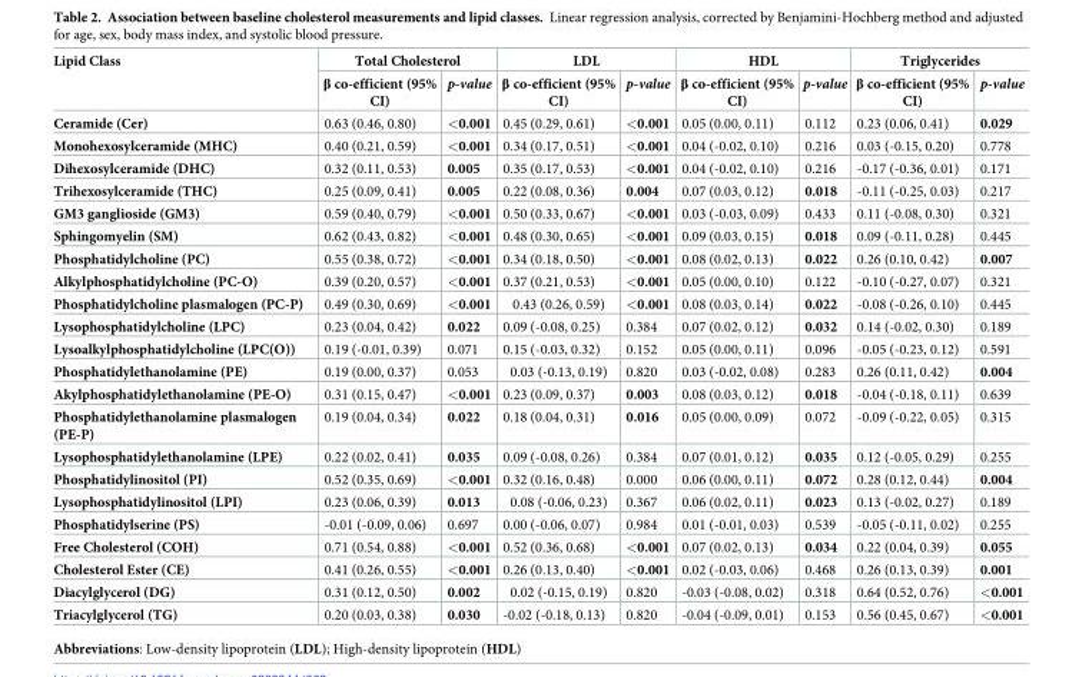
<table><thead><tr><td rowspan="2">Lipid Class</td><td colspan="2">Total Cholesterol</td><td colspan="2">LDL</td><td colspan="2">HDL</td><td colspan="2">Triglycerides</td></tr><tr><td>β co-efficient (95% CI)</td><td>p-value</td><td>β co-efficient (95% CI)</td><td>p-value</td><td>β co-efficient (95% CI)</td><td>p-value</td><td>β co-efficient (95% CI)</td><td>p-value</td></tr></thead><tbody><tr><td>Ceramide (Cer)</td><td>0.63 (0.46, 0.80)</td><td>&lt;0.001</td><td>0.45 (0.29, 0.61)</td><td>&lt;0.001</td><td>0.05 (0.00, 0.11)</td><td>0.112</td><td>0.23 (0.06, 0.41)</td><td>0.029</td></tr><tr><td>Monohexosylceramide (MHC)</td><td>0.40 (0.21, 0.59)</td><td>&lt;0.001</td><td>0.34 (0.17, 0.51)</td><td>&lt;0.001</td><td>0.04 (-0.02, 0.10)</td><td>0.216</td><td>0.03 (-0.15, 0.20)</td><td>0.778</td></tr><tr><td>Dihexosylceramide (DHC)</td><td>0.32 (0.11, 0.53)</td><td>0.005</td><td>0.35 (0.17, 0.53)</td><td>&lt;0.001</td><td>0.04 (-0.02, 0.10)</td><td>0.216</td><td>-0.17 (-0.36, 0.01)</td><td>0.171</td></tr><tr><td>Trihexosylceramide (THC)</td><td>0.25 (0.09, 0.41)</td><td>0.005</td><td>0.22 (0.08, 0.36)</td><td>0.004</td><td>0.07 (0.03, 0.12)</td><td>0.018</td><td>-0.11 (-0.25, 0.03)</td><td>0.217</td></tr><tr><td>GM3 ganglioside (GM3)</td><td>0.59 (0.40, 0.79)</td><td>&lt;0.001</td><td>0.50 (0.33, 0.67)</td><td>&lt;0.001</td><td>0.03 (-0.03, 0.09)</td><td>0.433</td><td>0.11 (-0.08, 0.30)</td><td>0.321</td></tr><tr><td>Sphingomyelin (SM)</td><td>0.62 (0.43, 0.82)</td><td>&lt;0.001</td><td>0.48 (0.30, 0.65)</td><td>&lt;0.001</td><td>0.09 (0.03, 0.15)</td><td>0.018</td><td>0.09 (-0.11, 0.28)</td><td>0.445</td></tr><tr><td>Phosphatidylcholine (PC)</td><td>0.55 (0.38, 0.72)</td><td>&lt;0.001</td><td>0.34 (0.18, 0.50)</td><td>&lt;0.001</td><td>0.08 (0.02, 0.13)</td><td>0.022</td><td>0.26 (0.10, 0.42)</td><td>0.007</td></tr><tr><td>Alkylphosphatidylcholine (PC-O)</td><td>0.39 (0.20, 0.57)</td><td>&lt;0.001</td><td>0.37 (0.21, 0.53)</td><td>&lt;0.001</td><td>0.05 (0.00, 0.10)</td><td>0.122</td><td>-0.10 (-0.27, 0.07)</td><td>0.321</td></tr><tr><td>Phosphatidylcholine plasmalogen (PC-P)</td><td>0.49 (0.30, 0.69)</td><td>&lt;0.001</td><td>0.43 (0.26, 0.59)</td><td>&lt;0.001</td><td>0.08 (0.03, 0.14)</td><td>0.022</td><td>-0.08 (-0.26, 0.10)</td><td>0.445</td></tr><tr><td>Lysophosphatidylcholine (LPC)</td><td>0.23 (0.04, 0.42)</td><td>0.022</td><td>0.09 (-0.08, 0.25)</td><td>0.384</td><td>0.07 (0.02, 0.12)</td><td>0.032</td><td>0.14 (-0.02, 0.30)</td><td>0.189</td></tr><tr><td>Lysoalkylphosphatidylcholine (LPC(O))</td><td>0.19 (-0.01, 0.39)</td><td>0.071</td><td>0.15 (-0.03, 0.32)</td><td>0.152</td><td>0.05 (0.00, 0.11)</td><td>0.096</td><td>-0.05 (-0.23, 0.12)</td><td>0.591</td></tr><tr><td>Phosphatidylethanolamine (PE)</td><td>0.19 (0.00, 0.37)</td><td>0.053</td><td>0.03 (-0.13, 0.19)</td><td>0.820</td><td>0.03 (-0.02, 0.08)</td><td>0.283</td><td>0.26 (0.11, 0.42)</td><td>0.004</td></tr><tr><td>Akylphosphatidylethanolamine (PE-O)</td><td>0.31 (0.15, 0.47)</td><td>&lt;0.001</td><td>0.23 (0.09, 0.37)</td><td>0.003</td><td>0.08 (0.03, 0.12)</td><td>0.018</td><td>-0.04 (-0.18, 0.11)</td><td>0.639</td></tr><tr><td>Phosphatidylethanolamine plasmalogen (PE-P)</td><td>0.19 (0.04, 0.34)</td><td>0.022</td><td>0.18 (0.04, 0.31)</td><td>0.016</td><td>0.05 (0.00, 0.09)</td><td>0.072</td><td>-0.09 (-0.22, 0.05)</td><td>0.315</td></tr><tr><td>Lysophosphatidylethanolamine (LPE)</td><td>0.22 (0.02, 0.41)</td><td>0.035</td><td>0.09 (-0.08, 0.26)</td><td>0.384</td><td>0.07 (0.01, 0.12)</td><td>0.035</td><td>0.12 (-0.05, 0.29)</td><td>0.255</td></tr><tr><td>Phosphatidylinositol (PI)</td><td>0.52 (0.35, 0.69)</td><td>&lt;0.001</td><td>0.32 (0.16, 0.48)</td><td>0.000</td><td>0.06 (0.00, 0.11)</td><td>0.072</td><td>0.28 (0.12, 0.44)</td><td>0.004</td></tr><tr><td>Lysophosphatidylinositol (LPI)</td><td>0.23 (0.06, 0.39)</td><td>0.013</td><td>0.08 (-0.06, 0.23)</td><td>0.367</td><td>0.06 (0.02, 0.11)</td><td>0.023</td><td>0.13 (-0.02, 0.27)</td><td>0.189</td></tr><tr><td>Phosphatidylserine (PS)</td><td>-0.01 (-0.09, 0.06)</td><td>0.697</td><td>0.00 (-0.06, 0.07)</td><td>0.984</td><td>0.01 (-0.01, 0.03)</td><td>0.539</td><td>-0.05 (-0.11, 0.02)</td><td>0.255</td></tr><tr><td>Free Cholesterol (COH)</td><td>0.71 (0.54, 0.88)</td><td>&lt;0.001</td><td>0.52 (0.36, 0.68)</td><td>&lt;0.001</td><td>0.07 (0.02, 0.13)</td><td>0.034</td><td>0.22 (0.04, 0.39)</td><td>0.055</td></tr><tr><td>Cholesterol Ester (CE)</td><td>0.41 (0.26, 0.55)</td><td>&lt;0.001</td><td>0.26 (0.13, 0.40)</td><td>&lt;0.001</td><td>0.02 (-0.03, 0.06)</td><td>0.468</td><td>0.26 (0.13, 0.39)</td><td>0.001</td></tr><tr><td>Diacylglycerol (DG)</td><td>0.31 (0.12, 0.50)</td><td>0.002</td><td>0.02 (-0.15, 0.19)</td><td>0.820</td><td>-0.03 (-0.08, 0.02)</td><td>0.318</td><td>0.64 (0.52, 0.76)</td><td>&lt;0.001</td></tr><tr><td>Triacylglycerol (TG)</td><td>0.20 (0.03, 0.38)</td><td>0.030</td><td>-0.02 (-0.18, 0.13)</td><td>0.820</td><td>-0.04 (-0.09, 0.01)</td><td>0.153</td><td>0.56 (0.45, 0.67)</td><td>&lt;0.001</td></tr></tbody></table>